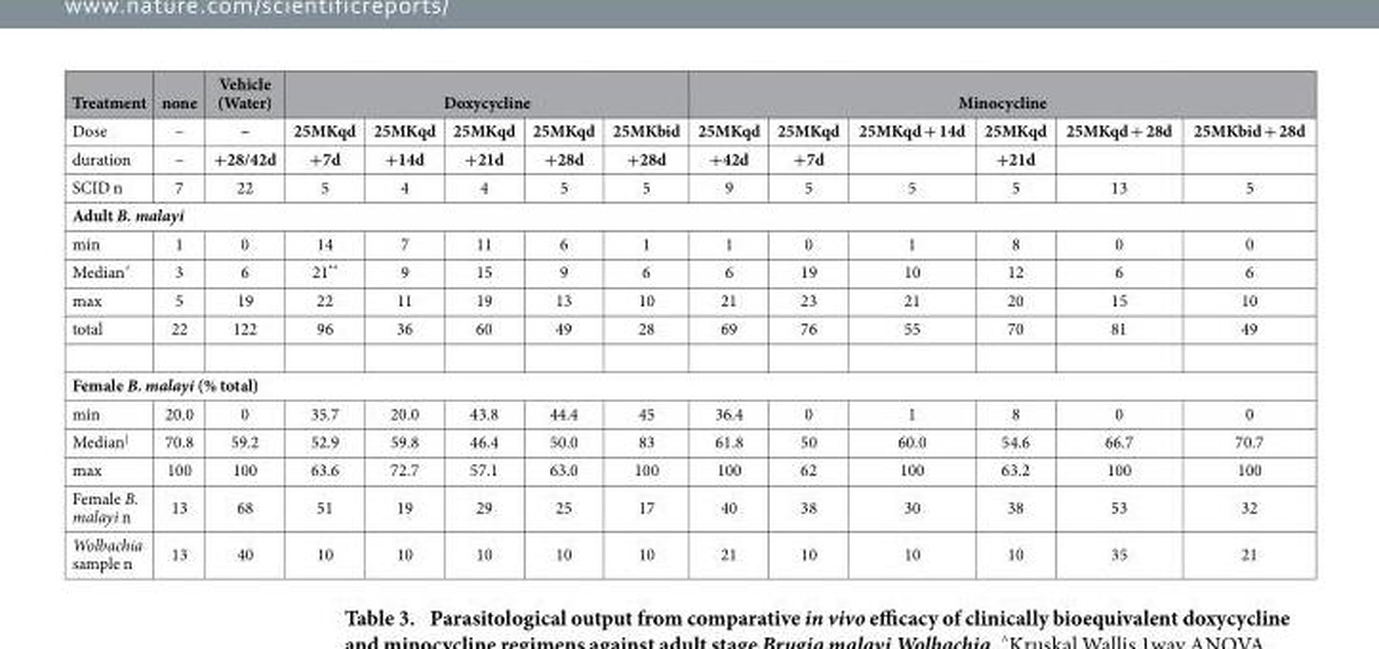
<table><thead><tr><td rowspan="2">Treatment Dose</td><td rowspan="2">none –</td><td rowspan="2">Vehicle (Water) –</td><td colspan="5">Doxycycline</td><td colspan="6">Minocycline</td></tr><tr><td>25MKqd</td><td>25MKqd</td><td>25MKqd</td><td>25MKqd</td><td>25MKbid</td><td>25MKqd</td><td>25MKqd</td><td>25MKqd + 14d</td><td>25MKqd</td><td>25MKqd + 28d</td><td>25MKbid + 28d</td></tr></thead><tbody><tr><td>duration</td><td>–</td><td>+28/42d</td><td>+7d</td><td>+14d</td><td>+21d</td><td>+28d</td><td>+28d</td><td>+42d</td><td>+7d</td><td></td><td>+21d</td><td></td><td></td></tr><tr><td>SCID n</td><td>7</td><td>22</td><td>5</td><td>4</td><td>4</td><td>5</td><td>5</td><td>9</td><td>5</td><td>5</td><td>5</td><td>13</td><td>5</td></tr><tr><td colspan="14">Adult B. malayi</td></tr><tr><td>min</td><td>1</td><td>0</td><td>14</td><td>7</td><td>11</td><td>6</td><td>1</td><td>1</td><td>0</td><td>1</td><td>8</td><td>0</td><td>0</td></tr><tr><td>Median^</td><td>3</td><td>6</td><td>21**</td><td>9</td><td>15</td><td>9</td><td>6</td><td>6</td><td>19</td><td>10</td><td>12</td><td>6</td><td>6</td></tr><tr><td>max</td><td>5</td><td>19</td><td>22</td><td>11</td><td>19</td><td>13</td><td>10</td><td>21</td><td>23</td><td>21</td><td>20</td><td>15</td><td>10</td></tr><tr><td>total</td><td>22</td><td>122</td><td>96</td><td>36</td><td>60</td><td>49</td><td>28</td><td>69</td><td>76</td><td>55</td><td>70</td><td>81</td><td>49</td></tr><tr><td colspan="14">Female B. malayi (% total)</td></tr><tr><td>min</td><td>20.0</td><td>0</td><td>35.7</td><td>20.0</td><td>43.8</td><td>44.4</td><td>45</td><td>36.4</td><td>0</td><td>1</td><td>8</td><td>0</td><td>0</td></tr><tr><td>Median|</td><td>70.8</td><td>59.2</td><td>52.9</td><td>59.8</td><td>46.4</td><td>50.0</td><td>83</td><td>61.8</td><td>50</td><td>60.0</td><td>54.6</td><td>66.7</td><td>70.7</td></tr><tr><td>max</td><td>100</td><td>100</td><td>63.6</td><td>72.7</td><td>57.1</td><td>63.0</td><td>100</td><td>100</td><td>62</td><td>100</td><td>63.2</td><td>100</td><td>100</td></tr><tr><td>Female B. malayi n</td><td>13</td><td>68</td><td>51</td><td>19</td><td>29</td><td>25</td><td>17</td><td>40</td><td>38</td><td>30</td><td>38</td><td>53</td><td>32</td></tr><tr><td>Wolbachia sample n</td><td>13</td><td>40</td><td>10</td><td>10</td><td>10</td><td>10</td><td>10</td><td>21</td><td>10</td><td>10</td><td>10</td><td>35</td><td>21</td></tr></tbody></table>